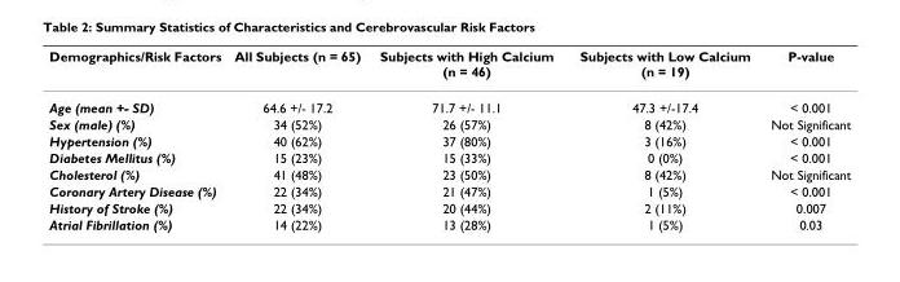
<table><thead><tr><td>Demographics/Risk Factors</td><td>All Subjects (n = 65)</td><td>Subjects with High Calcium (n = 46)</td><td>Subjects with Low Calcium (n = 19)</td><td>P-value</td></tr></thead><tbody><tr><td>Age (mean +- SD)</td><td>64.6 +/- 17.2</td><td>71.7 +/- 11.1</td><td>47.3 +/-17.4</td><td>&lt; 0.001</td></tr><tr><td>Sex (male) (%)</td><td>34 (52%)</td><td>26 (57%)</td><td>8 (42%)</td><td>Not Significant</td></tr><tr><td>Hypertension (%)</td><td>40 (62%)</td><td>37 (80%)</td><td>3 (16%)</td><td>&lt; 0.001</td></tr><tr><td>Diabetes Mellitus (%)</td><td>15 (23%)</td><td>15 (33%)</td><td>0 (0%)</td><td>&lt; 0.001</td></tr><tr><td>Cholesterol (%)</td><td>41 (48%)</td><td>23 (50%)</td><td>8 (42%)</td><td>Not Significant</td></tr><tr><td>Coronary Artery Disease (%)</td><td>22 (34%)</td><td>21 (47%)</td><td>1 (5%)</td><td>&lt; 0.001</td></tr><tr><td>History of Stroke (%)</td><td>22 (34%)</td><td>20 (44%)</td><td>2 (11%)</td><td>0.007</td></tr><tr><td>Atrial Fibrillation (%)</td><td>14 (22%)</td><td>13 (28%)</td><td>1 (5%)</td><td>0.03</td></tr></tbody></table>